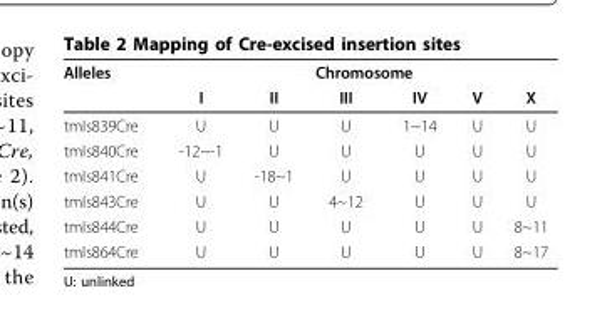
<table><thead><tr><td rowspan="2">Alleles</td><td rowspan="2">I</td><td rowspan="2">II</td><td colspan="2">Chromosome</td><td rowspan="2">V</td><td rowspan="2">X</td></tr><tr><td>III</td><td>IV</td></tr></thead><tbody><tr><td>tmIs839Cre</td><td>U</td><td>U</td><td>U</td><td>1~14</td><td>U</td><td>U</td></tr><tr><td>tmIs840Cre</td><td>-12~-1</td><td>U</td><td>U</td><td>U</td><td>U</td><td>U</td></tr><tr><td>tmIs841Cre</td><td>U</td><td>-18~1</td><td>U</td><td>U</td><td>U</td><td>U</td></tr><tr><td>tmIs843Cre</td><td>U</td><td>U</td><td>4~12</td><td>U</td><td>U</td><td>U</td></tr><tr><td>tmIs844Cre</td><td>U</td><td>U</td><td>U</td><td>U</td><td>U</td><td>8~11</td></tr><tr><td>tmIs864Cre</td><td>U</td><td>U</td><td>U</td><td>U</td><td>U</td><td>8~17</td></tr></tbody></table>